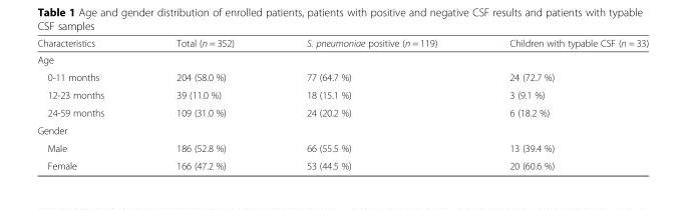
<table><thead><tr><td>Characteristics</td><td>Total (n = 352)</td><td>S. pneumoniae positive (n = 119)</td><td>Children with typable CSF (n = 33)</td></tr></thead><tbody><tr><td colspan="4">Age</td></tr><tr><td>0-11 months</td><td>204 (58.0 %)</td><td>77 (64.7 %)</td><td>24 (72.7 %)</td></tr><tr><td>12-23 months</td><td>39 (11.0 %)</td><td>18 (15.1 %)</td><td>3 (9.1 %)</td></tr><tr><td>24-59 months</td><td>109 (31.0 %)</td><td>24 (20.2 %)</td><td>6 (18.2 %)</td></tr><tr><td colspan="4">Gender</td></tr><tr><td>Male</td><td>186 (52.8 %)</td><td>66 (55.5 %)</td><td>13 (39.4 %)</td></tr><tr><td>Female</td><td>166 (47.2 %)</td><td>53 (44.5 %)</td><td>20 (60.6 %)</td></tr></tbody></table>